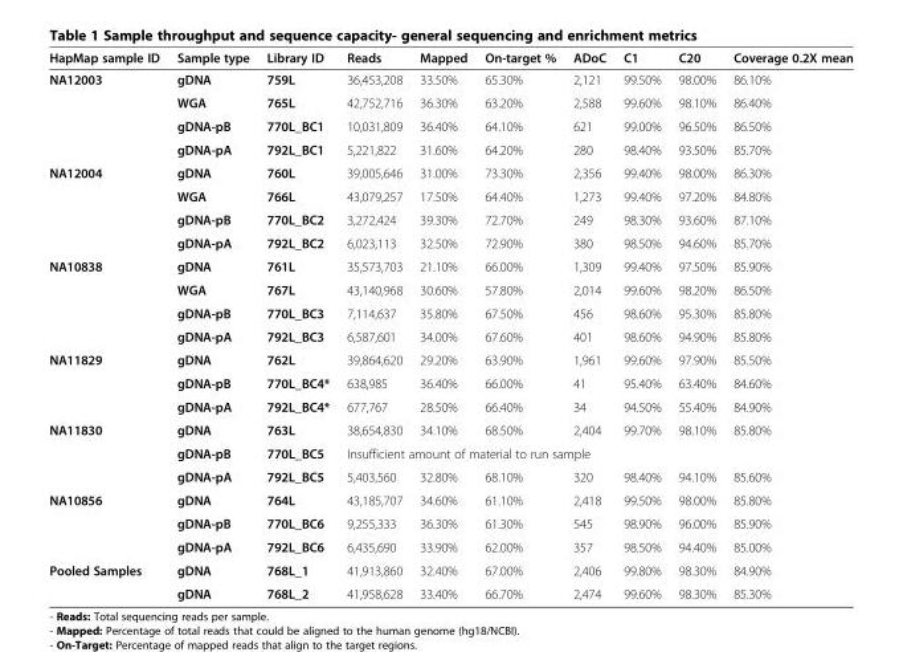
<table><thead><tr><td>HapMap sample ID</td><td>Sample type</td><td>Library ID</td><td>Reads</td><td>Mapped</td><td>On-target %</td><td>ADoC</td><td>C1</td><td>C20</td><td>Coverage 0.2X mean</td></tr></thead><tbody><tr><td rowspan="4">NA12003</td><td>gDNA</td><td>759L</td><td>36,453,208</td><td>33.50%</td><td>65.30%</td><td>2,121</td><td>99.50%</td><td>98.00%</td><td>86.10%</td></tr><tr><td>WGA</td><td>765L</td><td>42,752,716</td><td>36.30%</td><td>63.20%</td><td>2,588</td><td>99.60%</td><td>98.10%</td><td>86.40%</td></tr><tr><td>gDNA-pB</td><td>770L_BC1</td><td>10,031,809</td><td>36.40%</td><td>64.10%</td><td>621</td><td>99.00%</td><td>96.50%</td><td>86.50%</td></tr><tr><td>gDNA-pA</td><td>792L_BC1</td><td>5,221,822</td><td>31.60%</td><td>64.20%</td><td>280</td><td>98.40%</td><td>93.50%</td><td>85.70%</td></tr><tr><td rowspan="4">NA12004</td><td>gDNA</td><td>760L</td><td>39,005,646</td><td>31.00%</td><td>73.30%</td><td>2,356</td><td>99.40%</td><td>98.00%</td><td>86.30%</td></tr><tr><td>WGA</td><td>766L</td><td>43,079,257</td><td>17.50%</td><td>64.40%</td><td>1,273</td><td>99.40%</td><td>97.20%</td><td>84.80%</td></tr><tr><td>gDNA-pB</td><td>770L_BC2</td><td>3,272,424</td><td>39.30%</td><td>72.70%</td><td>249</td><td>98.30%</td><td>93.60%</td><td>87.10%</td></tr><tr><td>gDNA-pA</td><td>792L_BC2</td><td>6,023,113</td><td>32.50%</td><td>72.90%</td><td>380</td><td>98.50%</td><td>94.60%</td><td>85.70%</td></tr><tr><td rowspan="4">NA10838</td><td>gDNA</td><td>761L</td><td>35,573,703</td><td>21.10%</td><td>66.00%</td><td>1,309</td><td>99.40%</td><td>97.50%</td><td>85.90%</td></tr><tr><td>WGA</td><td>767L</td><td>43,140,968</td><td>30.60%</td><td>57.80%</td><td>2,014</td><td>99.60%</td><td>98.20%</td><td>86.50%</td></tr><tr><td>gDNA-pB</td><td>770L_BC3</td><td>7,114,637</td><td>35.80%</td><td>67.50%</td><td>456</td><td>98.60%</td><td>95.30%</td><td>85.80%</td></tr><tr><td>gDNA-pA</td><td>792L_BC3</td><td>6,587,601</td><td>34.00%</td><td>67.60%</td><td>401</td><td>98.60%</td><td>94.90%</td><td>85.80%</td></tr><tr><td rowspan="3">NA11829</td><td>gDNA</td><td>762L</td><td>39,864,620</td><td>29.20%</td><td>63.90%</td><td>1,961</td><td>99.60%</td><td>97.90%</td><td>85.50%</td></tr><tr><td>gDNA-pB</td><td>770L_BC4*</td><td>638,985</td><td>36.40%</td><td>66.00%</td><td>41</td><td>95.40%</td><td>63.40%</td><td>84.60%</td></tr><tr><td>gDNA-pA</td><td>792L_BC4*</td><td>677,767</td><td>28.50%</td><td>66.40%</td><td>34</td><td>94.50%</td><td>55.40%</td><td>84.90%</td></tr><tr><td rowspan="3">NA11830</td><td>gDNA</td><td>763L</td><td>38,654,830</td><td>34.10%</td><td>68.50%</td><td>2,404</td><td>99.70%</td><td>98.10%</td><td>85.80%</td></tr><tr><td>gDNA-pB</td><td>770L_BC5</td><td colspan="7">Insufficient amount of material to run sample</td></tr><tr><td>gDNA-pA</td><td>792L_BC5</td><td>5,403,560</td><td>32.80%</td><td>68.10%</td><td>320</td><td>98.40%</td><td>94.10%</td><td>85.60%</td></tr><tr><td rowspan="3">NA10856</td><td>gDNA</td><td>764L</td><td>43,185,707</td><td>34.60%</td><td>61.10%</td><td>2,418</td><td>99.50%</td><td>98.00%</td><td>85.80%</td></tr><tr><td>gDNA-pB</td><td>770L_BC6</td><td>9,255,333</td><td>36.30%</td><td>61.30%</td><td>545</td><td>98.90%</td><td>96.00%</td><td>85.90%</td></tr><tr><td>gDNA-pA</td><td>792L_BC6</td><td>6,435,690</td><td>33.90%</td><td>62.00%</td><td>357</td><td>98.50%</td><td>94.40%</td><td>85.00%</td></tr><tr><td rowspan="2">Pooled Samples</td><td>gDNA</td><td>768L_1</td><td>41,913,860</td><td>32.40%</td><td>67.00%</td><td>2,406</td><td>99.80%</td><td>98.30%</td><td>84.90%</td></tr><tr><td>gDNA</td><td>768L_2</td><td>41,958,628</td><td>33.40%</td><td>66.70%</td><td>2,474</td><td>99.60%</td><td>98.30%</td><td>85.30%</td></tr></tbody></table>